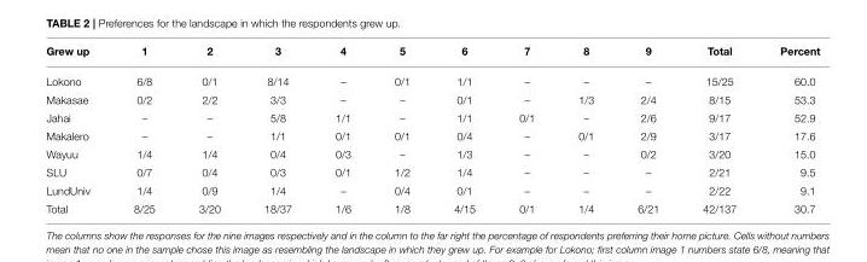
<table><thead><tr><td>Grew up</td><td>1</td><td>2</td><td>3</td><td>4</td><td>5</td><td>6</td><td>7</td><td>8</td><td>9</td><td>Total</td><td>Percent</td></tr></thead><tbody><tr><td>Lokono</td><td>6/8</td><td>0/1</td><td>8/14</td><td>–</td><td>0/1</td><td>1/1</td><td>–</td><td>–</td><td>–</td><td>15/25</td><td>60.0</td></tr><tr><td>Makasae</td><td>0/2</td><td>2/2</td><td>3/3</td><td>–</td><td>–</td><td>0/1</td><td>–</td><td>1/3</td><td>2/4</td><td>8/15</td><td>53.3</td></tr><tr><td>Jahai</td><td>–</td><td>–</td><td>5/8</td><td>1/1</td><td>–</td><td>1/1</td><td>0/1</td><td>–</td><td>2/6</td><td>9/17</td><td>52.9</td></tr><tr><td>Makalero</td><td>–</td><td>–</td><td>1/1</td><td>0/1</td><td>0/1</td><td>0/4</td><td>–</td><td>0/1</td><td>2/9</td><td>3/17</td><td>17.6</td></tr><tr><td>Wayuu</td><td>1/4</td><td>1/4</td><td>0/4</td><td>0/3</td><td>–</td><td>1/3</td><td>–</td><td>–</td><td>0/2</td><td>3/20</td><td>15.0</td></tr><tr><td>SLU</td><td>0/7</td><td>0/4</td><td>0/3</td><td>0/1</td><td>1/2</td><td>1/4</td><td>–</td><td>–</td><td>–</td><td>2/21</td><td>9.5</td></tr><tr><td>LundUniv</td><td>1/4</td><td>0/9</td><td>1/4</td><td>–</td><td>0/4</td><td>0/1</td><td>–</td><td>–</td><td>–</td><td>2/22</td><td>9.1</td></tr><tr><td>Total</td><td>8/25</td><td>3/20</td><td>18/37</td><td>1/6</td><td>1/8</td><td>4/15</td><td>0/1</td><td>1/4</td><td>6/21</td><td>42/137</td><td>30.7</td></tr></tbody></table>